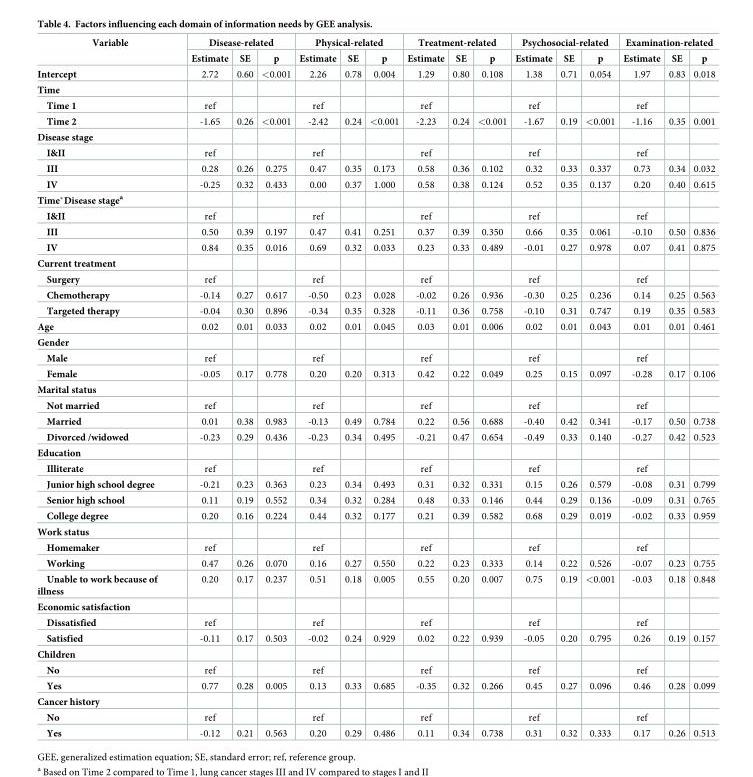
<table><thead><tr><td rowspan="2">Variable</td><td colspan="3">Disease-related</td><td colspan="3">Physical-related</td><td colspan="3">Treatment-related</td><td colspan="3">Psychosocial-related</td><td colspan="3">Examination-related</td></tr><tr><td>Estimate</td><td>SE</td><td>p</td><td>Estimate</td><td>SE</td><td>p</td><td>Estimate</td><td>SE</td><td>p</td><td>Estimate</td><td>SE</td><td>p</td><td>Estimate</td><td>SE</td><td>p</td></tr></thead><tbody><tr><td>Intercept</td><td>2.72</td><td>0.60</td><td>&lt;0.001</td><td>2.26</td><td>0.78</td><td>0.004</td><td>1.29</td><td>0.80</td><td>0.108</td><td>1.38</td><td>0.71</td><td>0.054</td><td>1.97</td><td>0.83</td><td>0.018</td></tr><tr><td colspan="16">Time</td></tr><tr><td>Time 1</td><td>ref</td><td></td><td></td><td>ref</td><td></td><td></td><td>ref</td><td></td><td></td><td>ref</td><td></td><td></td><td>ref</td><td></td><td></td></tr><tr><td>Time 2</td><td>-1.65</td><td>0.26</td><td>&lt;0.001</td><td>-2.42</td><td>0.24</td><td>&lt;0.001</td><td>-2.23</td><td>0.24</td><td>&lt;0.001</td><td>-1.67</td><td>0.19</td><td>&lt;0.001</td><td>-1.16</td><td>0.35</td><td>0.001</td></tr><tr><td colspan="16">Disease stage</td></tr><tr><td>I&amp;II</td><td>ref</td><td></td><td></td><td>ref</td><td></td><td></td><td>ref</td><td></td><td></td><td>ref</td><td></td><td></td><td>ref</td><td></td><td></td></tr><tr><td>III</td><td>0.28</td><td>0.26</td><td>0.275</td><td>0.47</td><td>0.35</td><td>0.173</td><td>0.58</td><td>0.36</td><td>0.102</td><td>0.32</td><td>0.33</td><td>0.337</td><td>0.73</td><td>0.34</td><td>0.032</td></tr><tr><td>IV</td><td>-0.25</td><td>0.32</td><td>0.433</td><td>0.00</td><td>0.37</td><td>1.000</td><td>0.58</td><td>0.38</td><td>0.124</td><td>0.52</td><td>0.35</td><td>0.137</td><td>0.20</td><td>0.40</td><td>0.615</td></tr><tr><td colspan="16">Time*Disease stage<sup>a</sup></td></tr><tr><td>I&amp;II</td><td>ref</td><td></td><td></td><td>ref</td><td></td><td></td><td>ref</td><td></td><td></td><td>ref</td><td></td><td></td><td>ref</td><td></td><td></td></tr><tr><td>III</td><td>0.50</td><td>0.39</td><td>0.197</td><td>0.47</td><td>0.41</td><td>0.251</td><td>0.37</td><td>0.39</td><td>0.350</td><td>0.66</td><td>0.35</td><td>0.061</td><td>-0.10</td><td>0.50</td><td>0.836</td></tr><tr><td>IV</td><td>0.84</td><td>0.35</td><td>0.016</td><td>0.69</td><td>0.32</td><td>0.033</td><td>0.23</td><td>0.33</td><td>0.489</td><td>-0.01</td><td>0.27</td><td>0.978</td><td>0.07</td><td>0.41</td><td>0.875</td></tr><tr><td colspan="16">Current treatment</td></tr><tr><td>Surgery</td><td>ref</td><td></td><td></td><td>ref</td><td></td><td></td><td>ref</td><td></td><td></td><td>ref</td><td></td><td></td><td>ref</td><td></td><td></td></tr><tr><td>Chemotherapy</td><td>-0.14</td><td>0.27</td><td>0.617</td><td>-0.50</td><td>0.23</td><td>0.028</td><td>-0.02</td><td>0.26</td><td>0.936</td><td>-0.30</td><td>0.25</td><td>0.236</td><td>0.14</td><td>0.25</td><td>0.563</td></tr><tr><td>Targeted therapy</td><td>-0.04</td><td>0.30</td><td>0.896</td><td>-0.34</td><td>0.35</td><td>0.328</td><td>-0.11</td><td>0.36</td><td>0.758</td><td>-0.10</td><td>0.31</td><td>0.747</td><td>0.19</td><td>0.35</td><td>0.583</td></tr><tr><td>Age</td><td>0.02</td><td>0.01</td><td>0.033</td><td>0.02</td><td>0.01</td><td>0.045</td><td>0.03</td><td>0.01</td><td>0.006</td><td>0.02</td><td>0.01</td><td>0.043</td><td>0.01</td><td>0.01</td><td>0.461</td></tr><tr><td colspan="16">Gender</td></tr><tr><td>Male</td><td>ref</td><td></td><td></td><td>ref</td><td></td><td></td><td>ref</td><td></td><td></td><td>ref</td><td></td><td></td><td>ref</td><td></td><td></td></tr><tr><td>Female</td><td>-0.05</td><td>0.17</td><td>0.778</td><td>0.20</td><td>0.20</td><td>0.313</td><td>0.42</td><td>0.22</td><td>0.049</td><td>0.25</td><td>0.15</td><td>0.097</td><td>-0.28</td><td>0.17</td><td>0.106</td></tr><tr><td colspan="16">Marital status</td></tr><tr><td>Not married</td><td>ref</td><td></td><td></td><td>ref</td><td></td><td></td><td>ref</td><td></td><td></td><td>ref</td><td></td><td></td><td>ref</td><td></td><td></td></tr><tr><td>Married</td><td>0.01</td><td>0.38</td><td>0.983</td><td>-0.13</td><td>0.49</td><td>0.784</td><td>0.22</td><td>0.56</td><td>0.688</td><td>-0.40</td><td>0.42</td><td>0.341</td><td>-0.17</td><td>0.50</td><td>0.738</td></tr><tr><td>Divorced /widowed</td><td>-0.23</td><td>0.29</td><td>0.436</td><td>-0.23</td><td>0.34</td><td>0.495</td><td>-0.21</td><td>0.47</td><td>0.654</td><td>-0.49</td><td>0.33</td><td>0.140</td><td>-0.27</td><td>0.42</td><td>0.523</td></tr><tr><td colspan="16">Education</td></tr><tr><td>Illiterate</td><td>ref</td><td></td><td></td><td>ref</td><td></td><td></td><td>ref</td><td></td><td></td><td>ref</td><td></td><td></td><td>ref</td><td></td><td></td></tr><tr><td>Junior high school degree</td><td>-0.21</td><td>0.23</td><td>0.363</td><td>0.23</td><td>0.34</td><td>0.493</td><td>0.31</td><td>0.32</td><td>0.331</td><td>0.15</td><td>0.26</td><td>0.579</td><td>-0.08</td><td>0.31</td><td>0.799</td></tr><tr><td>Senior high school</td><td>0.11</td><td>0.19</td><td>0.552</td><td>0.34</td><td>0.32</td><td>0.284</td><td>0.48</td><td>0.33</td><td>0.146</td><td>0.44</td><td>0.29</td><td>0.136</td><td>-0.09</td><td>0.31</td><td>0.765</td></tr><tr><td>College degree</td><td>0.20</td><td>0.16</td><td>0.224</td><td>0.44</td><td>0.32</td><td>0.177</td><td>0.21</td><td>0.39</td><td>0.582</td><td>0.68</td><td>0.29</td><td>0.019</td><td>-0.02</td><td>0.33</td><td>0.959</td></tr><tr><td colspan="16">Work status</td></tr><tr><td>Homemaker</td><td>ref</td><td></td><td></td><td>ref</td><td></td><td></td><td>ref</td><td></td><td></td><td>ref</td><td></td><td></td><td>ref</td><td></td><td></td></tr><tr><td>Working</td><td>0.47</td><td>0.26</td><td>0.070</td><td>0.16</td><td>0.27</td><td>0.550</td><td>0.22</td><td>0.23</td><td>0.333</td><td>0.14</td><td>0.22</td><td>0.526</td><td>-0.07</td><td>0.23</td><td>0.755</td></tr><tr><td>Unable to work because of illness</td><td>0.20</td><td>0.17</td><td>0.237</td><td>0.51</td><td>0.18</td><td>0.005</td><td>0.55</td><td>0.20</td><td>0.007</td><td>0.75</td><td>0.19</td><td>&lt;0.001</td><td>-0.03</td><td>0.18</td><td>0.848</td></tr><tr><td colspan="16">Economic satisfaction</td></tr><tr><td>Dissatisfied</td><td>ref</td><td></td><td></td><td>ref</td><td></td><td></td><td>ref</td><td></td><td></td><td>ref</td><td></td><td></td><td>ref</td><td></td><td></td></tr><tr><td>Satisfied</td><td>-0.11</td><td>0.17</td><td>0.503</td><td>-0.02</td><td>0.24</td><td>0.929</td><td>0.02</td><td>0.22</td><td>0.939</td><td>-0.05</td><td>0.20</td><td>0.795</td><td>0.26</td><td>0.19</td><td>0.157</td></tr><tr><td colspan="16">Children</td></tr><tr><td>No</td><td>ref</td><td></td><td></td><td>ref</td><td></td><td></td><td>ref</td><td></td><td></td><td>ref</td><td></td><td></td><td>ref</td><td></td><td></td></tr><tr><td>Yes</td><td>0.77</td><td>0.28</td><td>0.005</td><td>0.13</td><td>0.33</td><td>0.685</td><td>-0.35</td><td>0.32</td><td>0.266</td><td>0.45</td><td>0.27</td><td>0.096</td><td>0.46</td><td>0.28</td><td>0.099</td></tr><tr><td colspan="16">Cancer history</td></tr><tr><td>No</td><td>ref</td><td></td><td></td><td>ref</td><td></td><td></td><td>ref</td><td></td><td></td><td>ref</td><td></td><td></td><td>ref</td><td></td><td></td></tr><tr><td>Yes</td><td>-0.12</td><td>0.21</td><td>0.563</td><td>0.20</td><td>0.29</td><td>0.486</td><td>0.11</td><td>0.34</td><td>0.738</td><td>0.31</td><td>0.32</td><td>0.333</td><td>0.17</td><td>0.26</td><td>0.513</td></tr></tbody></table>